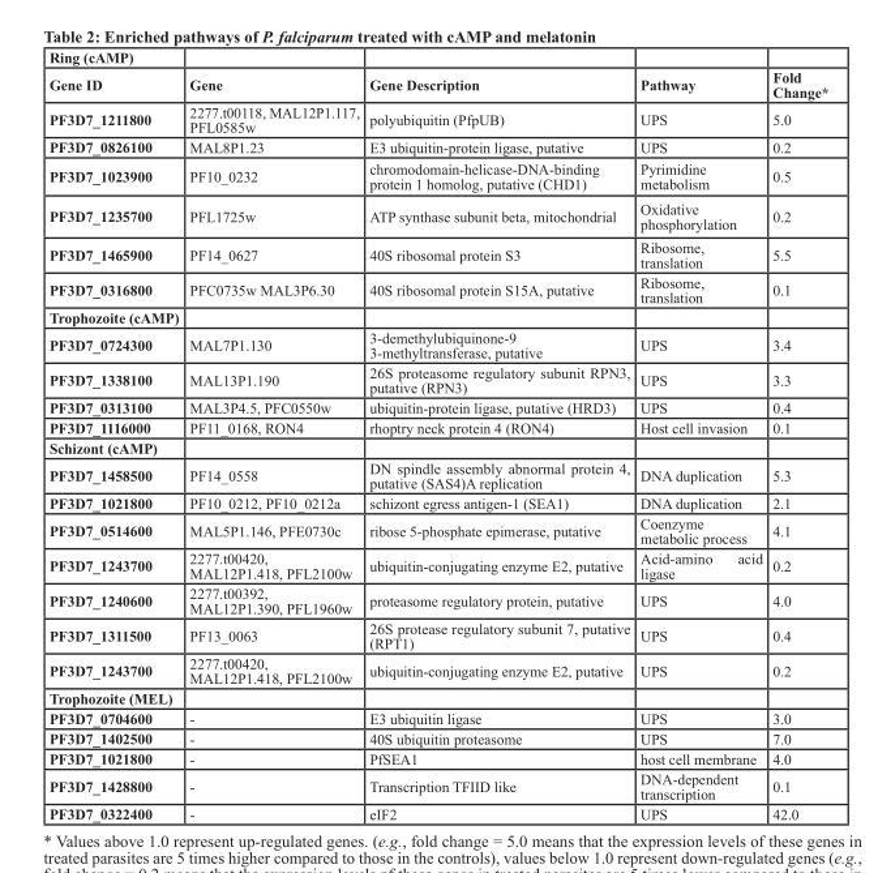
<table><thead><tr><td rowspan="2">Ring (cAMP) Gene ID</td><td rowspan="2">Gene</td><td rowspan="2">Gene Description</td><td rowspan="2">Pathway</td><td rowspan="2">Fold Change*</td></tr><tr></tr></thead><tbody><tr><td>PF3D7_1211800</td><td>2277.t00118, MAL12P1.117, PFL0585w</td><td>polyubiquitin (PfpUB)</td><td>UPS</td><td>5.0</td></tr><tr><td>PF3D7_0826100</td><td>MAL8P1.23</td><td>E3 ubiquitin-protein ligase, putative</td><td>UPS</td><td>0.2</td></tr><tr><td>PF3D7_1023900</td><td>PF10_0232</td><td>chromodomain-helicase-DNA-binding protein 1 homolog, putative (CHD1)</td><td>Pyrimidine metabolism</td><td>0.5</td></tr><tr><td>PF3D7_1235700</td><td>PFL1725w</td><td>ATP synthase subunit beta, mitochondrial</td><td>Oxidative phosphorylation</td><td>0.2</td></tr><tr><td>PF3D7_1465900</td><td>PF14_0627</td><td>40S ribosomal protein S3</td><td>Ribosome, translation</td><td>5.5</td></tr><tr><td>PF3D7_0316800</td><td>PFC0735w MAL3P6.30</td><td>40S ribosomal protein S15A, putative</td><td>Ribosome, translation</td><td>0.1</td></tr><tr><td colspan="5">Trophozoite (cAMP)</td></tr><tr><td>PF3D7_0724300</td><td>MAL7P1.130</td><td>3-demethylubiquinone-9 3-methyltransferase, putative</td><td>UPS</td><td>3.4</td></tr><tr><td>PF3D7_1338100</td><td>MAL13P1.190</td><td>26S proteasome regulatory subunit RPN3, putative (RPN3)</td><td>UPS</td><td>3.3</td></tr><tr><td>PF3D7_0313100</td><td>MAL3P4.5, PFC0550w</td><td>ubiquitin-protein ligase, putative (HRD3)</td><td>UPS</td><td>0.4</td></tr><tr><td>PF3D7_1116000</td><td>PF11_0168, RON4</td><td>rhoptry neck protein 4 (RON4)</td><td>Host cell invasion</td><td>0.1</td></tr><tr><td colspan="5">Schizont (cAMP)</td></tr><tr><td>PF3D7_1458500</td><td>PF14_0558</td><td>DN spindle assembly abnormal protein 4, putative (SAS4)A replication</td><td>DNA duplication</td><td>5.3</td></tr><tr><td>PF3D7_1021800</td><td>PF10_0212, PF10_0212a</td><td>schizont egress antigen-1 (SEA1)</td><td>DNA duplication</td><td>2.1</td></tr><tr><td>PF3D7_0514600</td><td>MAL5P1.146, PFE0730c</td><td>ribose 5-phosphate epimerase, putative</td><td>Coenzyme metabolic process</td><td>4.1</td></tr><tr><td>PF3D7_1243700</td><td>2277.t00420, MAL12P1.418, PFL2100w</td><td>ubiquitin-conjugating enzyme E2, putative</td><td>Acid-amino acid ligase</td><td>0.2</td></tr><tr><td>PF3D7_1240600</td><td>2277.t00392, MAL12P1.390, PFL1960w</td><td>proteasome regulatory protein, putative</td><td>UPS</td><td>4.0</td></tr><tr><td>PF3D7_1311500</td><td>PF13_0063</td><td>26S protease regulatory subunit 7, putative (RPT1)</td><td>UPS</td><td>0.4</td></tr><tr><td>PF3D7_1243700</td><td>2277.t00420, MAL12P1.418, PFL2100w</td><td>ubiquitin-conjugating enzyme E2, putative</td><td>UPS</td><td>0.2</td></tr><tr><td colspan="5">Trophozoite (MEL)</td></tr><tr><td>PF3D7_0704600</td><td>-</td><td>E3 ubiquitin ligase</td><td>UPS</td><td>3.0</td></tr><tr><td>PF3D7_1402500</td><td>-</td><td>40S ubiquitin proteasome</td><td>UPS</td><td>7.0</td></tr><tr><td>PF3D7_1021800</td><td>-</td><td>PfSEA1</td><td>host cell membrane</td><td>4.0</td></tr><tr><td>PF3D7_1428800</td><td>-</td><td>Transcription TFIID like</td><td>DNA-dependent transcription</td><td>0.1</td></tr><tr><td>PF3D7_0322400</td><td>-</td><td>eIF2</td><td>UPS</td><td>42.0</td></tr></tbody></table>